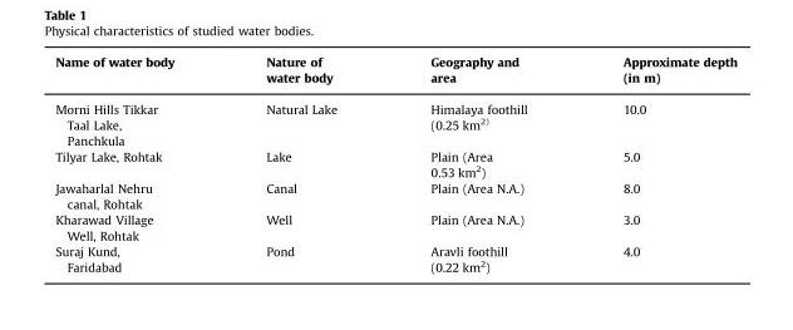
<table><thead><tr><td>Name of water body</td><td>Nature of water body</td><td>Geography and area</td><td>Approximate depth (in m)</td></tr></thead><tbody><tr><td>Morni Hills Tikkar Taal Lake, Panchkula</td><td>Natural Lake</td><td>Himalaya foothill (0.25 km<sup>2)</sup></td><td>10.0</td></tr><tr><td>Tilyar Lake, Rohtak</td><td>Lake</td><td>Plain (Area 0.53 km<sup>2</sup>)</td><td>5.0</td></tr><tr><td>Jawaharlal Nehru canal, Rohtak</td><td>Canal</td><td>Plain (Area N.A.)</td><td>8.0</td></tr><tr><td>Kharawad Village Well, Rohtak</td><td>Well</td><td>Plain (Area N.A.)</td><td>3.0</td></tr><tr><td>Suraj Kund, Faridabad</td><td>Pond</td><td>Aravli foothill (0.22 km<sup>2</sup>)</td><td>4.0</td></tr></tbody></table>